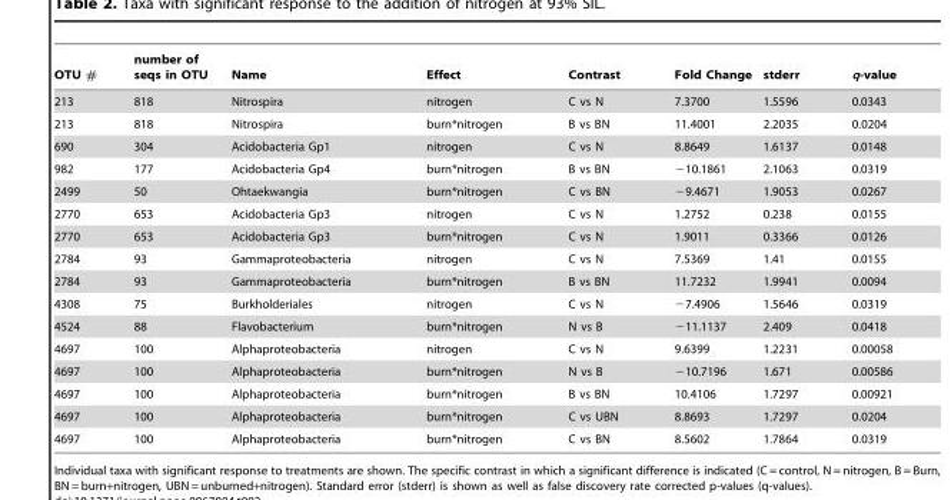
<table><thead><tr><td>OTU #</td><td>number of seqs in OTU</td><td>Name</td><td>Effect</td><td>Contrast</td><td>Fold Change</td><td>stderr</td><td>q-value</td></tr></thead><tbody><tr><td>213</td><td>818</td><td>Nitrospira</td><td>nitrogen</td><td>C vs N</td><td>7.3700</td><td>1.5596</td><td>0.0343</td></tr><tr><td>213</td><td>818</td><td>Nitrospira</td><td>burn*nitrogen</td><td>B vs BN</td><td>11.4001</td><td>2.2035</td><td>0.0204</td></tr><tr><td>690</td><td>304</td><td>Acidobacteria Gp1</td><td>nitrogen</td><td>C vs N</td><td>8.8649</td><td>1.6137</td><td>0.0148</td></tr><tr><td>982</td><td>177</td><td>Acidobacteria Gp4</td><td>burn*nitrogen</td><td>B vs BN</td><td>−10.1861</td><td>2.1063</td><td>0.0319</td></tr><tr><td>2499</td><td>50</td><td>Ohtaekwangia</td><td>burn*nitrogen</td><td>C vs BN</td><td>−9.4671</td><td>1.9053</td><td>0.0267</td></tr><tr><td>2770</td><td>653</td><td>Acidobacteria Gp3</td><td>nitrogen</td><td>C vs N</td><td>1.2752</td><td>0.238</td><td>0.0155</td></tr><tr><td>2770</td><td>653</td><td>Acidobacteria Gp3</td><td>burn*nitrogen</td><td>C vs N</td><td>1.9011</td><td>0.3366</td><td>0.0126</td></tr><tr><td>2784</td><td>93</td><td>Gammaproteobacteria</td><td>nitrogen</td><td>C vs N</td><td>7.5369</td><td>1.41</td><td>0.0155</td></tr><tr><td>2784</td><td>93</td><td>Gammaproteobacteria</td><td>burn*nitrogen</td><td>B vs BN</td><td>11.7232</td><td>1.9941</td><td>0.0094</td></tr><tr><td>4308</td><td>75</td><td>Burkholderiales</td><td>nitrogen</td><td>C vs N</td><td>−7.4906</td><td>1.5646</td><td>0.0319</td></tr><tr><td>4524</td><td>88</td><td>Flavobacterium</td><td>burn*nitrogen</td><td>N vs B</td><td>−11.1137</td><td>2.409</td><td>0.0418</td></tr><tr><td>4697</td><td>100</td><td>Alphaproteobacteria</td><td>nitrogen</td><td>C vs N</td><td>9.6399</td><td>1.2231</td><td>0.00058</td></tr><tr><td>4697</td><td>100</td><td>Alphaproteobacteria</td><td>burn*nitrogen</td><td>N vs B</td><td>−10.7196</td><td>1.671</td><td>0.00586</td></tr><tr><td>4697</td><td>100</td><td>Alphaproteobacteria</td><td>burn*nitrogen</td><td>B vs BN</td><td>10.4106</td><td>1.7297</td><td>0.00921</td></tr><tr><td>4697</td><td>100</td><td>Alphaproteobacteria</td><td>burn*nitrogen</td><td>C vs UBN</td><td>8.8693</td><td>1.7297</td><td>0.0204</td></tr><tr><td>4697</td><td>100</td><td>Alphaproteobacteria</td><td>burn*nitrogen</td><td>C vs BN</td><td>8.5602</td><td>1.7864</td><td>0.0319</td></tr></tbody></table>